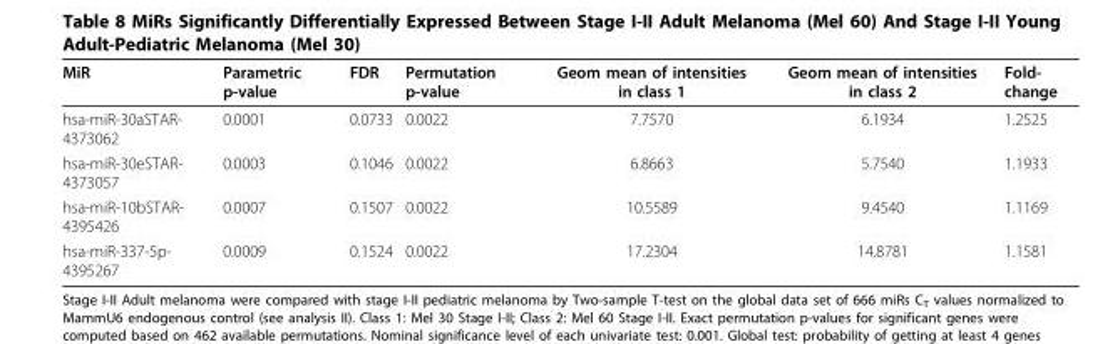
<table><thead><tr><td>MiR</td><td>Parametric p-value</td><td>FDR</td><td>Permutation p-value</td><td>Geom mean of intensities in class 1</td><td>Geom mean of intensities in class 2</td><td>Fold- change</td></tr></thead><tbody><tr><td>hsa-miR-30aSTAR- 4373062</td><td>0.0001</td><td>0.0733</td><td>0.0022</td><td>7.7570</td><td>6.1934</td><td>1.2525</td></tr><tr><td>hsa-miR-30eSTAR- 4373057</td><td>0.0003</td><td>0.1046</td><td>0.0022</td><td>6.8663</td><td>5.7540</td><td>1.1933</td></tr><tr><td>hsa-miR-10bSTAR- 4395426</td><td>0.0007</td><td>0.1507</td><td>0.0022</td><td>10.5589</td><td>9.4540</td><td>1.1169</td></tr><tr><td>hsa-miR-337-5p- 4395267</td><td>0.0009</td><td>0.1524</td><td>0.0022</td><td>17.2304</td><td>14.8781</td><td>1.1581</td></tr></tbody></table>